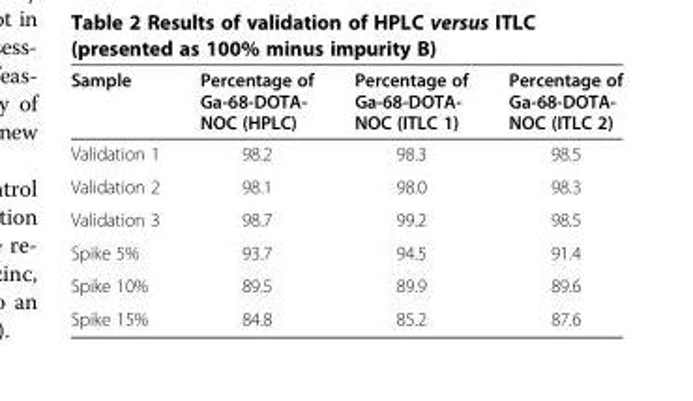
<table><thead><tr><td>Sample</td><td>Percentage of Ga-68-DOTA- NOC (HPLC)</td><td>Percentage of Ga-68-DOTA- NOC (ITLC 1)</td><td>Percentage of Ga-68-DOTA- NOC (ITLC 2)</td></tr></thead><tbody><tr><td>Validation 1</td><td>98.2</td><td>98.3</td><td>98.5</td></tr><tr><td>Validation 2</td><td>98.1</td><td>98.0</td><td>98.3</td></tr><tr><td>Validation 3</td><td>98.7</td><td>99.2</td><td>98.5</td></tr><tr><td>Spike 5%</td><td>93.7</td><td>94.5</td><td>91.4</td></tr><tr><td>Spike 10%</td><td>89.5</td><td>89.9</td><td>89.6</td></tr><tr><td>Spike 15%</td><td>84.8</td><td>85.2</td><td>87.6</td></tr></tbody></table>